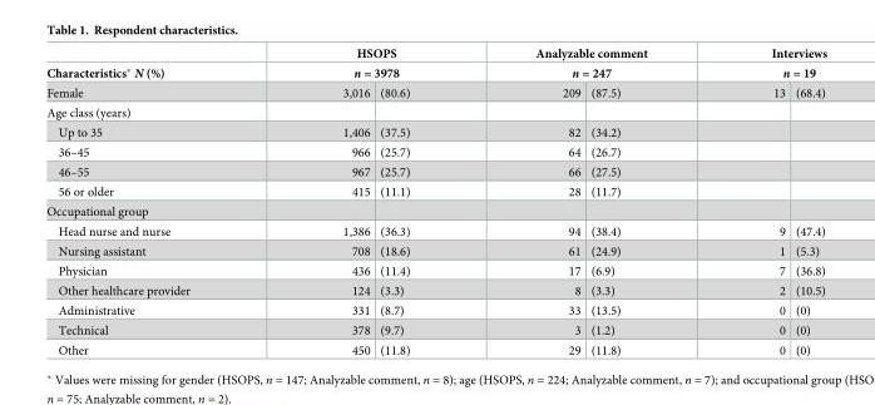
<table><thead><tr><td rowspan="3">Characteristics* N (%) Female</td><td rowspan="2" colspan="2">HSOPS n = 3978</td><td rowspan="2" colspan="2">Analyzable comment n = 247</td><td rowspan="2" colspan="2">Interviews n = 19</td></tr><tr></tr><tr><td>3,016</td><td>(80.6)</td><td>209</td><td>(87.5)</td><td>13</td><td>(68.4)</td></tr></thead><tbody><tr><td colspan="7">Age class (years)</td></tr><tr><td>Up to 35</td><td>1,406</td><td>(37.5)</td><td>82</td><td>(34.2)</td><td></td><td></td></tr><tr><td>36–45</td><td>966</td><td>(25.7)</td><td>64</td><td>(26.7)</td><td></td><td></td></tr><tr><td>46–55</td><td>967</td><td>(25.7)</td><td>66</td><td>(27.5)</td><td></td><td></td></tr><tr><td>56 or older</td><td>415</td><td>(11.1)</td><td>28</td><td>(11.7)</td><td></td><td></td></tr><tr><td colspan="7">Occupational group</td></tr><tr><td>Head nurse and nurse</td><td>1,386</td><td>(36.3)</td><td>94</td><td>(38.4)</td><td>9</td><td>(47.4)</td></tr><tr><td>Nursing assistant</td><td>708</td><td>(18.6)</td><td>61</td><td>(24.9)</td><td>1</td><td>(5.3)</td></tr><tr><td>Physician</td><td>436</td><td>(11.4)</td><td>17</td><td>(6.9)</td><td>7</td><td>(36.8)</td></tr><tr><td>Other healthcare provider</td><td>124</td><td>(3.3)</td><td>8</td><td>(3.3)</td><td>2</td><td>(10.5)</td></tr><tr><td>Administrative</td><td>331</td><td>(8.7)</td><td>33</td><td>(13.5)</td><td>0</td><td>(0)</td></tr><tr><td>Technical</td><td>378</td><td>(9.7)</td><td>3</td><td>(1.2)</td><td>0</td><td>(0)</td></tr><tr><td>Other</td><td>450</td><td>(11.8)</td><td>29</td><td>(11.8)</td><td>0</td><td>(0)</td></tr></tbody></table>